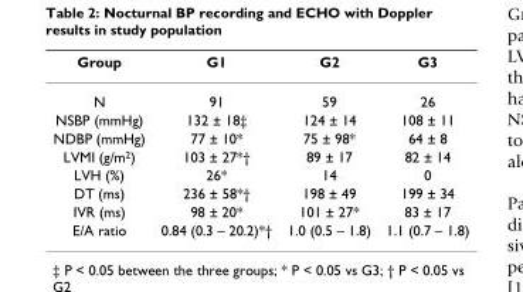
<table><thead><tr><td>Group</td><td>G1</td><td>G2</td><td>G3</td></tr></thead><tbody><tr><td>N</td><td>91</td><td>59</td><td>26</td></tr><tr><td>NSBP (mmHg)</td><td>132 ± 18‡</td><td>124 ± 14</td><td>108 ± 11</td></tr><tr><td>NDBP (mmHg)</td><td>77 ± 10*</td><td>75 ± 98*</td><td>64 ± 8</td></tr><tr><td>LVMI (g/m<sup>2</sup>)</td><td>103 ± 27*†</td><td>89 ± 17</td><td>82 ± 14</td></tr><tr><td>LVH (%)</td><td>26*</td><td>14</td><td>0</td></tr><tr><td>DT (ms)</td><td>236 ± 58*†</td><td>198 ± 49</td><td>199 ± 34</td></tr><tr><td>IVR (ms)</td><td>98 ± 20*</td><td>101 ± 27*</td><td>83 ± 17</td></tr><tr><td>E/A ratio</td><td>0.84 (0.3 – 20.2)*†</td><td>1.0 (0.5 – 1.8)</td><td>1.1 (0.7 – 1.8)</td></tr></tbody></table>